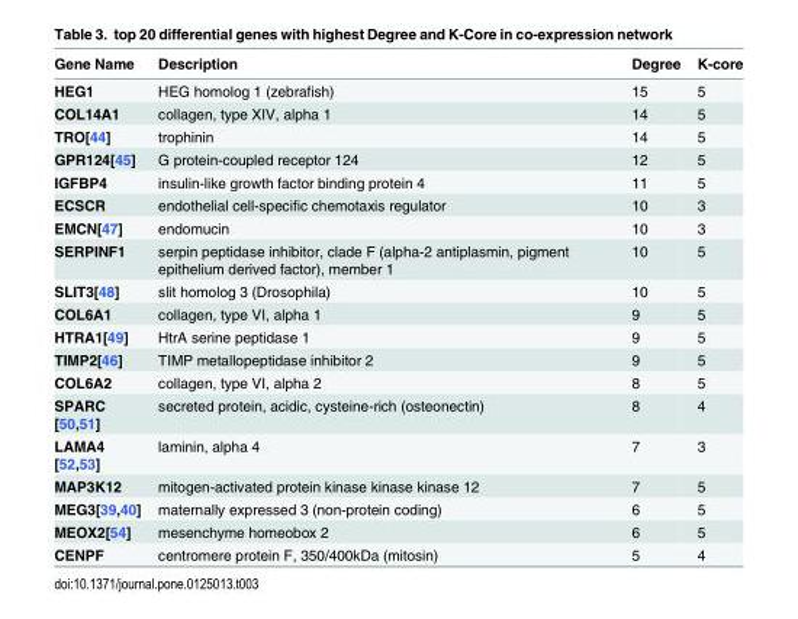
<table><thead><tr><td>Gene Name</td><td>Description</td><td>Degree</td><td>K-core</td></tr></thead><tbody><tr><td>HEG1</td><td>HEG homolog 1 (zebrafish)</td><td>15</td><td>5</td></tr><tr><td>COL14A1</td><td>collagen, type XIV, alpha 1</td><td>14</td><td>5</td></tr><tr><td>TRO[44]</td><td>trophinin</td><td>14</td><td>5</td></tr><tr><td>GPR124[45]</td><td>G protein-coupled receptor 124</td><td>12</td><td>5</td></tr><tr><td>IGFBP4</td><td>insulin-like growth factor binding protein 4</td><td>11</td><td>5</td></tr><tr><td>ECSCR</td><td>endothelial cell-specific chemotaxis regulator</td><td>10</td><td>3</td></tr><tr><td>EMCN[47]</td><td>endomucin</td><td>10</td><td>3</td></tr><tr><td>SERPINF1</td><td>serpin peptidase inhibitor, clade F (alpha-2 antiplasmin, pigment epithelium derived factor), member 1</td><td>10</td><td>5</td></tr><tr><td>SLIT3[48]</td><td>slit homolog 3 (Drosophila)</td><td>10</td><td>5</td></tr><tr><td>COL6A1</td><td>collagen, type VI, alpha 1</td><td>9</td><td>5</td></tr><tr><td>HTRA1[49]</td><td>HtrA serine peptidase 1</td><td>9</td><td>5</td></tr><tr><td>TIMP2[46]</td><td>TIMP metallopeptidase inhibitor 2</td><td>9</td><td>5</td></tr><tr><td>COL6A2</td><td>collagen, type VI, alpha 2</td><td>8</td><td>5</td></tr><tr><td>SPARC [50,51]</td><td>secreted protein, acidic, cysteine-rich (osteonectin)</td><td>8</td><td>4</td></tr><tr><td>LAMA4 [52,53]</td><td>laminin, alpha 4</td><td>7</td><td>3</td></tr><tr><td>MAP3K12</td><td>mitogen-activated protein kinase kinase kinase 12</td><td>7</td><td>5</td></tr><tr><td>MEG3[39,40]</td><td>maternally expressed 3 (non-protein coding)</td><td>6</td><td>5</td></tr><tr><td>MEOX2[54]</td><td>mesenchyme homeobox 2</td><td>6</td><td>5</td></tr><tr><td>CENPF</td><td>centromere protein F, 350/400kDa (mitosin)</td><td>5</td><td>4</td></tr></tbody></table>